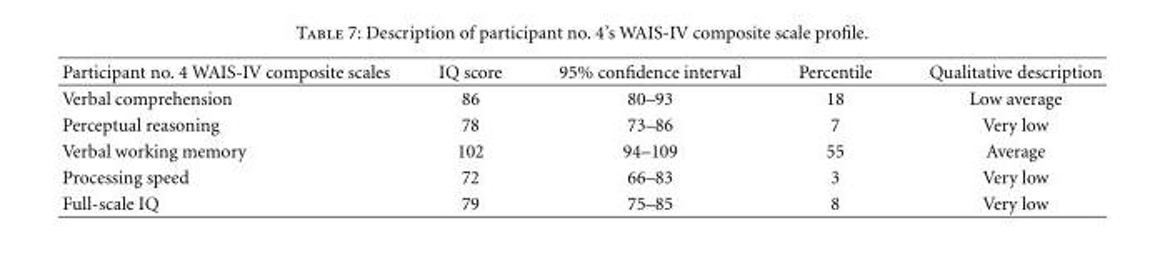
<table><thead><tr><td>Participant no. 4 WAIS-IV composite scales</td><td>IQ score</td><td>95% confidence interval</td><td>Percentile</td><td>Qualitative description</td></tr></thead><tbody><tr><td>Verbal comprehension</td><td>86</td><td>80–93</td><td>18</td><td>Low average</td></tr><tr><td>Perceptual reasoning</td><td>78</td><td>73–86</td><td>7</td><td>Very low</td></tr><tr><td>Verbal working memory</td><td>102</td><td>94–109</td><td>55</td><td>Average</td></tr><tr><td>Processing speed</td><td>72</td><td>66–83</td><td>3</td><td>Very low</td></tr><tr><td>Full-scale IQ</td><td>79</td><td>75–85</td><td>8</td><td>Very low</td></tr></tbody></table>